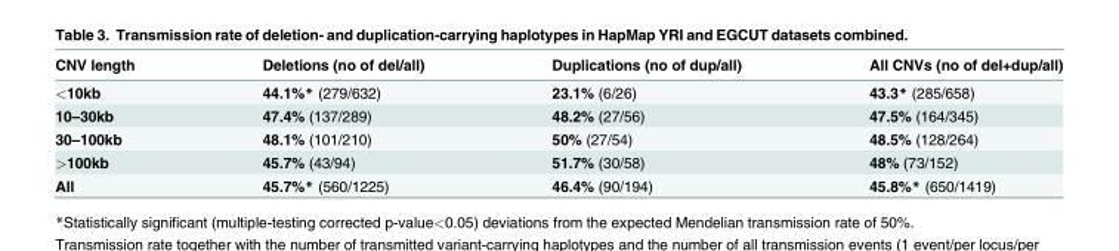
<table><thead><tr><td>CNV length</td><td>Deletions (no of del/all)</td><td>Duplications (no of dup/all)</td><td>All CNVs (no of del+dup/all)</td></tr></thead><tbody><tr><td>&lt;10kb</td><td>44.1%* (279/632)</td><td>23.1% (6/26)</td><td>43.3* (285/658)</td></tr><tr><td>10–30kb</td><td>47.4% (137/289)</td><td>48.2% (27/56)</td><td>47.5% (164/345)</td></tr><tr><td>30–100kb</td><td>48.1% (101/210)</td><td>50% (27/54)</td><td>48.5% (128/264)</td></tr><tr><td>&gt;100kb</td><td>45.7% (43/94)</td><td>51.7% (30/58)</td><td>48% (73/152)</td></tr><tr><td>All</td><td>45.7%* (560/1225)</td><td>46.4% (90/194)</td><td>45.8%* (650/1419)</td></tr></tbody></table>